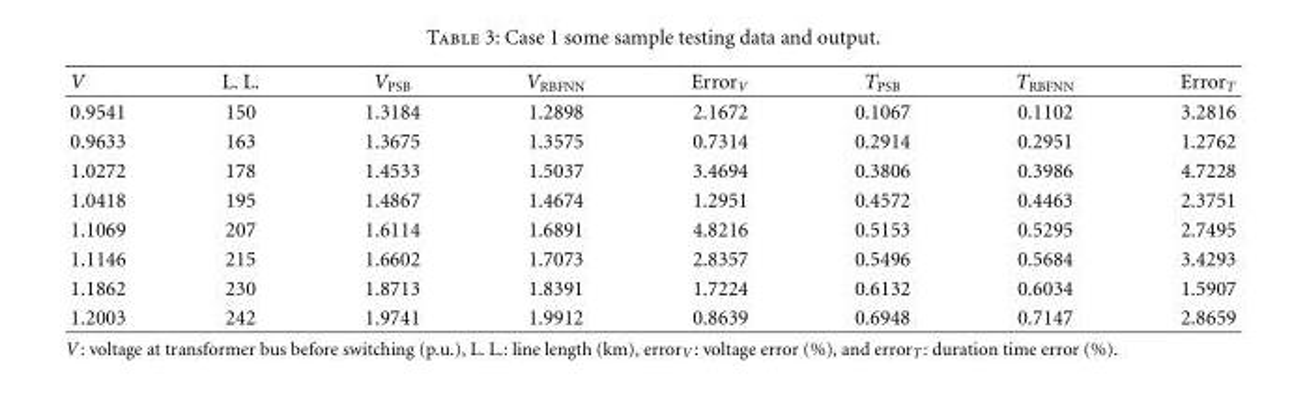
<table><thead><tr><td>V</td><td>L. L.</td><td>V<sub>PSB</sub></td><td>V<sub>RBFNN</sub></td><td>Error<sub>V</sub></td><td>T<sub>PSB</sub></td><td>T<sub>RBFNN</sub></td><td>Error<sub>T</sub></td></tr></thead><tbody><tr><td>0.9541</td><td>150</td><td>1.3184</td><td>1.2898</td><td>2.1672</td><td>0.1067</td><td>0.1102</td><td>3.2816</td></tr><tr><td>0.9633</td><td>163</td><td>1.3675</td><td>1.3575</td><td>0.7314</td><td>0.2914</td><td>0.2951</td><td>1.2762</td></tr><tr><td>1.0272</td><td>178</td><td>1.4533</td><td>1.5037</td><td>3.4694</td><td>0.3806</td><td>0.3986</td><td>4.7228</td></tr><tr><td>1.0418</td><td>195</td><td>1.4867</td><td>1.4674</td><td>1.2951</td><td>0.4572</td><td>0.4463</td><td>2.3751</td></tr><tr><td>1.1069</td><td>207</td><td>1.6114</td><td>1.6891</td><td>4.8216</td><td>0.5153</td><td>0.5295</td><td>2.7495</td></tr><tr><td>1.1146</td><td>215</td><td>1.6602</td><td>1.7073</td><td>2.8357</td><td>0.5496</td><td>0.5684</td><td>3.4293</td></tr><tr><td>1.1862</td><td>230</td><td>1.8713</td><td>1.8391</td><td>1.7224</td><td>0.6132</td><td>0.6034</td><td>1.5907</td></tr><tr><td>1.2003</td><td>242</td><td>1.9741</td><td>1.9912</td><td>0.8639</td><td>0.6948</td><td>0.7147</td><td>2.8659</td></tr></tbody></table>